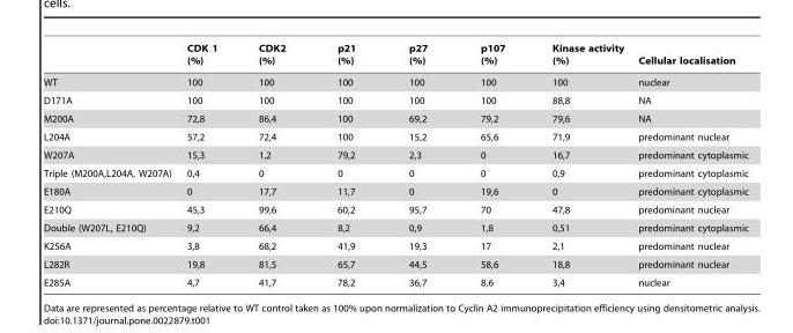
<table><thead><tr><td></td><td>CDK 1 (%)</td><td>CDK2 (%)</td><td>p21 (%)</td><td>p27 (%)</td><td>p107 (%)</td><td>Kinase activity (%)</td><td>Cellular localisation</td></tr></thead><tbody><tr><td>WT</td><td>100</td><td>100</td><td>100</td><td>100</td><td>100</td><td>100</td><td>nuclear</td></tr><tr><td>D171A</td><td>100</td><td>100</td><td>100</td><td>100</td><td>100</td><td>88,8</td><td>NA</td></tr><tr><td>M200A</td><td>72,8</td><td>86,4</td><td>100</td><td>69,2</td><td>79,2</td><td>79,6</td><td>NA</td></tr><tr><td>L204A</td><td>57,2</td><td>72,4</td><td>100</td><td>15,2</td><td>65,6</td><td>71,9</td><td>predominant nuclear</td></tr><tr><td>W207A</td><td>15,3</td><td>1,2</td><td>79,2</td><td>2,3</td><td>0</td><td>16,7</td><td>predominant cytoplasmic</td></tr><tr><td>Triple (M200A,L204A, W207A)</td><td>0,4</td><td>0</td><td>0</td><td>0</td><td>0</td><td>0,9</td><td>predominant cytoplasmic</td></tr><tr><td>E180A</td><td>0</td><td>17,7</td><td>11,7</td><td>0</td><td>19,6</td><td>0</td><td>predominant cytoplasmic</td></tr><tr><td>E210Q</td><td>45,3</td><td>99,6</td><td>60,2</td><td>95,7</td><td>70</td><td>47,8</td><td>predominant nuclear</td></tr><tr><td>Double (W207L, E210Q)</td><td>9,2</td><td>66,4</td><td>8,2</td><td>0,9</td><td>1,8</td><td>0,51</td><td>predominant cytoplasmic</td></tr><tr><td>K256A</td><td>3,8</td><td>68,2</td><td>41,9</td><td>19,3</td><td>17</td><td>2,1</td><td>predominant nuclear</td></tr><tr><td>L282R</td><td>19,8</td><td>81,5</td><td>65,7</td><td>44,5</td><td>58,6</td><td>18,8</td><td>predominant nuclear</td></tr><tr><td>E285A</td><td>4,7</td><td>41,7</td><td>78,2</td><td>36,7</td><td>8,6</td><td>3,4</td><td>nuclear</td></tr></tbody></table>